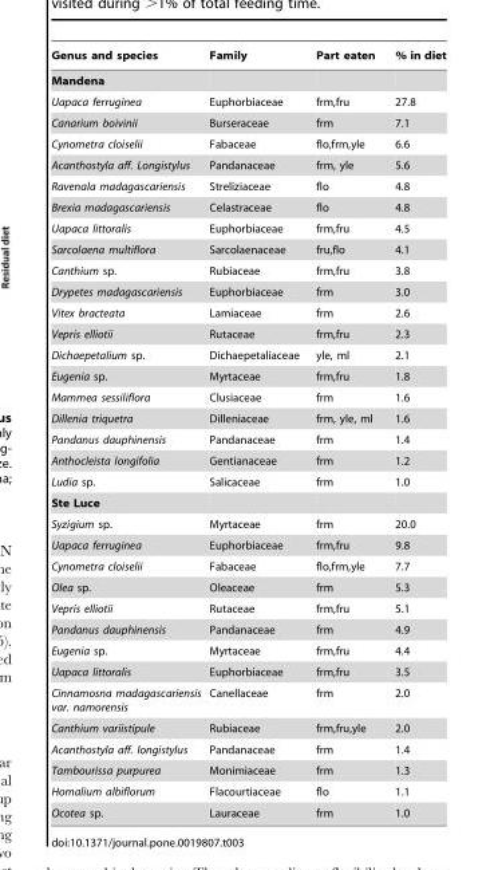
<table><thead><tr><td>Genus and species</td><td>Family</td><td>Part eaten</td><td>% in diet</td></tr></thead><tbody><tr><td colspan="4">Mandena</td></tr><tr><td>Uapaca ferruginea</td><td>Euphorbiaceae</td><td>frm,fru</td><td>27.8</td></tr><tr><td>Canarium boivinii</td><td>Burseraceae</td><td>frm</td><td>7.1</td></tr><tr><td>Cynometra cloiselii</td><td>Fabaceae</td><td>flo,frm,yle</td><td>6.6</td></tr><tr><td>Acanthostyla aff. Longistylus</td><td>Pandanaceae</td><td>frm, yle</td><td>5.6</td></tr><tr><td>Ravenala madagascariensis</td><td>Streliziaceae</td><td>flo</td><td>4.8</td></tr><tr><td>Brexia madagascariensis</td><td>Celastraceae</td><td>flo</td><td>4.8</td></tr><tr><td>Uapaca littoralis</td><td>Euphorbiaceae</td><td>frm,fru</td><td>4.5</td></tr><tr><td>Sarcolaena multiflora</td><td>Sarcolaenaceae</td><td>fru,flo</td><td>4.1</td></tr><tr><td>Canthium sp.</td><td>Rubiaceae</td><td>frm,fru</td><td>3.8</td></tr><tr><td>Drypetes madagascariensis</td><td>Euphorbiaceae</td><td>frm</td><td>3.0</td></tr><tr><td>Vitex bracteata</td><td>Lamiaceae</td><td>frm</td><td>2.6</td></tr><tr><td>Vepris elliotii</td><td>Rutaceae</td><td>frm,fru</td><td>2.3</td></tr><tr><td>Dichaepetalium sp.</td><td>Dichaepetaliaceae</td><td>yle, ml</td><td>2.1</td></tr><tr><td>Eugenia sp.</td><td>Myrtaceae</td><td>frm,fru</td><td>1.8</td></tr><tr><td>Mammea sessiliflora</td><td>Clusiaceae</td><td>frm</td><td>1.6</td></tr><tr><td>Dillenia triquetra</td><td>Dilleniaceae</td><td>frm, yle, ml</td><td>1.6</td></tr><tr><td>Pandanus dauphinensis</td><td>Pandanaceae</td><td>frm</td><td>1.4</td></tr><tr><td>Anthocleista longifolia</td><td>Gentianaceae</td><td>frm</td><td>1.2</td></tr><tr><td>Ludia sp.</td><td>Salicaceae</td><td>frm</td><td>1.0</td></tr><tr><td colspan="4">Ste Luce</td></tr><tr><td>Syzigium sp.</td><td>Myrtaceae</td><td>frm</td><td>20.0</td></tr><tr><td>Uapaca ferruginea</td><td>Euphorbiaceae</td><td>frm,fru</td><td>9.8</td></tr><tr><td>Cynometra cloiselii</td><td>Fabaceae</td><td>flo,frm,yle</td><td>7.7</td></tr><tr><td>Olea sp.</td><td>Oleaceae</td><td>frm</td><td>5.3</td></tr><tr><td>Vepris elliotii</td><td>Rutaceae</td><td>frm,fru</td><td>5.1</td></tr><tr><td>Pandanus dauphinensis</td><td>Pandanaceae</td><td>frm</td><td>4.9</td></tr><tr><td>Eugenia sp.</td><td>Myrtaceae</td><td>frm,fru</td><td>4.4</td></tr><tr><td>Uapaca littoralis</td><td>Euphorbiaceae</td><td>frm,fru</td><td>3.5</td></tr><tr><td>Cinnamosna madagascariensis var. namorensis</td><td>Canellaceae</td><td>frm</td><td>2.0</td></tr><tr><td>Canthium variistipule</td><td>Rubiaceae</td><td>frm,fru,yle</td><td>2.0</td></tr><tr><td>Acanthostyla aff. longistylus</td><td>Pandanaceae</td><td>frm</td><td>1.4</td></tr><tr><td>Tambourissa purpurea</td><td>Monimiaceae</td><td>frm</td><td>1.3</td></tr><tr><td>Homalium albiflorum</td><td>Flacourtiaceae</td><td>flo</td><td>1.1</td></tr><tr><td>Ocotea sp.</td><td>Lauraceae</td><td>frm</td><td>1.0</td></tr></tbody></table>